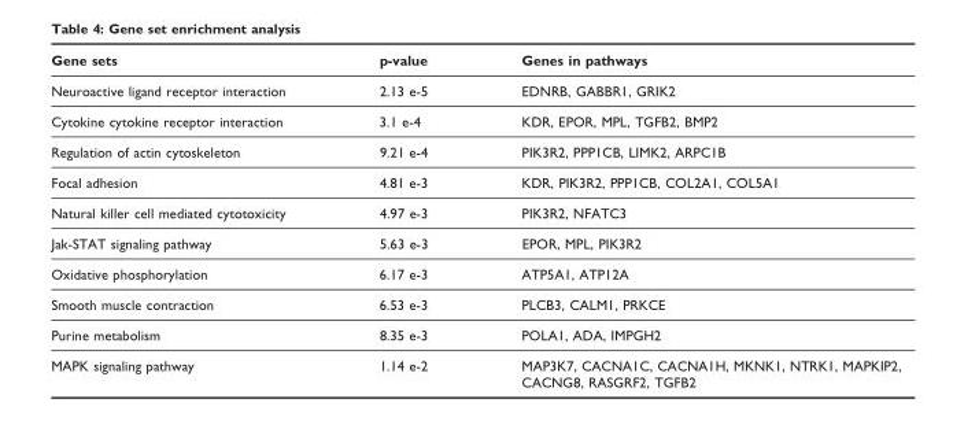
<table><thead><tr><td>Gene sets</td><td>p-value</td><td>Genes in pathways</td></tr></thead><tbody><tr><td>Neuroactive ligand receptor interaction</td><td>2.13 e-5</td><td>EDNRB, GABBR1, GRIK2</td></tr><tr><td>Cytokine cytokine receptor interaction</td><td>3.1 e-4</td><td>KDR, EPOR, MPL, TGFB2, BMP2</td></tr><tr><td>Regulation of actin cytoskeleton</td><td>9.21 e-4</td><td>PIK3R2, PPP1CB, LIMK2, ARPC1B</td></tr><tr><td>Focal adhesion</td><td>4.81 e-3</td><td>KDR, PIK3R2, PPP1CB, COL2A1, COL5A1</td></tr><tr><td>Natural killer cell mediated cytotoxicity</td><td>4.97 e-3</td><td>PIK3R2, NFATC3</td></tr><tr><td>Jak-STAT signaling pathway</td><td>5.63 e-3</td><td>EPOR, MPL, PIK3R2</td></tr><tr><td>Oxidative phosphorylation</td><td>6.17 e-3</td><td>ATP5A1, ATP12A</td></tr><tr><td>Smooth muscle contraction</td><td>6.53 e-3</td><td>PLCB3, CALM1, PRKCE</td></tr><tr><td>Purine metabolism</td><td>8.35 e-3</td><td>POLA1, ADA, IMPGH2</td></tr><tr><td>MAPK signaling pathway</td><td>1.14 e-2</td><td>MAP3K7, CACNA1C, CACNA1H, MKNK1, NTRK1, MAPKIP2, CACNG8, RASGRF2, TGFB2</td></tr></tbody></table>